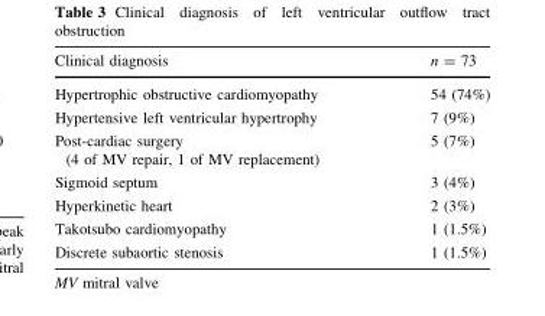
<table><thead><tr><td>Clinical diagnosis</td><td>n = 73</td></tr></thead><tbody><tr><td>Hypertrophic obstructive cardiomyopathy</td><td>54 (74%)</td></tr><tr><td>Hypertensive left ventricular hypertrophy</td><td>7 (9%)</td></tr><tr><td>Post-cardiac surgery (4 of MV repair, 1 of MV replacement)</td><td>5 (7%)</td></tr><tr><td>Sigmoid septum</td><td>3 (4%)</td></tr><tr><td>Hyperkinetic heart</td><td>2 (3%)</td></tr><tr><td>Takotsubo cardiomyopathy</td><td>1 (1.5%)</td></tr><tr><td>Discrete subaortic stenosis</td><td>1 (1.5%)</td></tr></tbody></table>